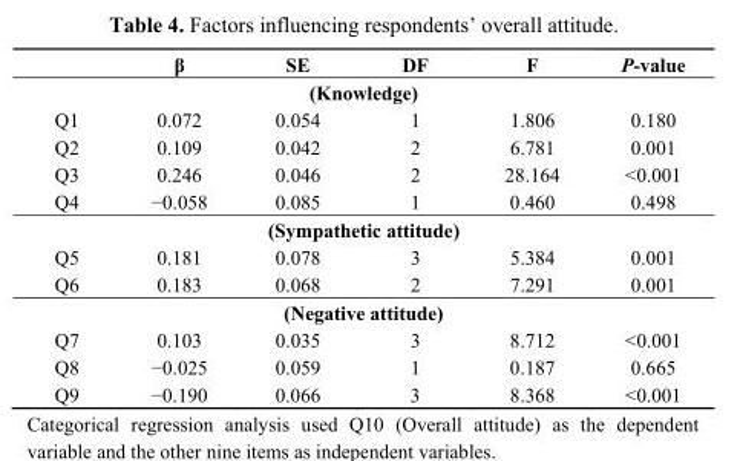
<table><thead><tr><td></td><td>β</td><td>SE</td><td>DF</td><td>F</td><td>P-value</td></tr></thead><tbody><tr><td colspan="6">(Knowledge)</td></tr><tr><td>Q1</td><td>0.072</td><td>0.054</td><td>1</td><td>1.806</td><td>0.180</td></tr><tr><td>Q2</td><td>0.109</td><td>0.042</td><td>2</td><td>6.781</td><td>0.001</td></tr><tr><td>Q3</td><td>0.246</td><td>0.046</td><td>2</td><td>28.164</td><td>&lt;0.001</td></tr><tr><td>Q4</td><td>−0.058</td><td>0.085</td><td>1</td><td>0.460</td><td>0.498</td></tr><tr><td colspan="6">(Sympathetic attitude)</td></tr><tr><td>Q5</td><td>0.181</td><td>0.078</td><td>3</td><td>5.384</td><td>0.001</td></tr><tr><td>Q6</td><td>0.183</td><td>0.068</td><td>2</td><td>7.291</td><td>0.001</td></tr><tr><td colspan="6">(Negative attitude)</td></tr><tr><td>Q7</td><td>0.103</td><td>0.035</td><td>3</td><td>8.712</td><td>&lt;0.001</td></tr><tr><td>Q8</td><td>−0.025</td><td>0.059</td><td>1</td><td>0.187</td><td>0.665</td></tr><tr><td>Q9</td><td>−0.190</td><td>0.066</td><td>3</td><td>8.368</td><td>&lt;0.001</td></tr></tbody></table>